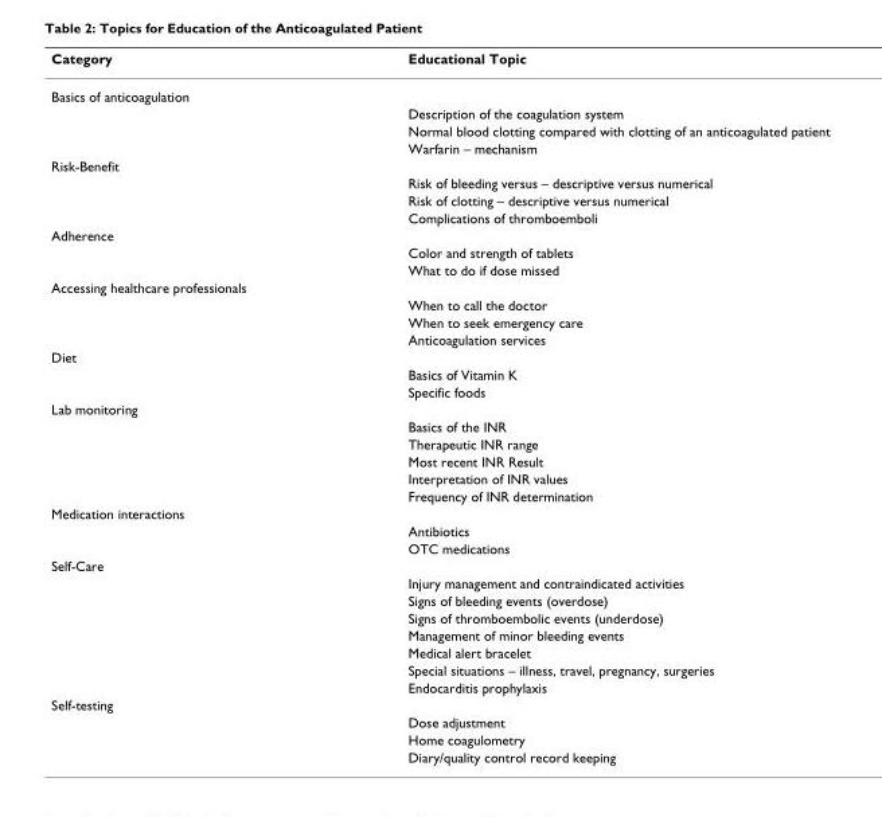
<table><thead><tr><td>Category</td><td>Educational Topic</td></tr></thead><tbody><tr><td colspan="2">Basics of anticoagulation</td></tr><tr><td></td><td>Description of the coagulation system</td></tr><tr><td></td><td>Normal blood clotting compared with clotting of an anticoagulated patient</td></tr><tr><td></td><td>Warfarin – mechanism</td></tr><tr><td colspan="2">Risk-Benefit</td></tr><tr><td></td><td>Risk of bleeding versus – descriptive versus numerical</td></tr><tr><td></td><td>Risk of clotting – descriptive versus numerical</td></tr><tr><td></td><td>Complications of thromboemboli</td></tr><tr><td colspan="2">Adherence</td></tr><tr><td></td><td>Color and strength of tablets</td></tr><tr><td></td><td>What to do if dose missed</td></tr><tr><td colspan="2">Accessing healthcare professionals</td></tr><tr><td></td><td>When to call the doctor</td></tr><tr><td></td><td>When to seek emergency care</td></tr><tr><td></td><td>Anticoagulation services</td></tr><tr><td colspan="2">Diet</td></tr><tr><td></td><td>Basics of Vitamin K</td></tr><tr><td></td><td>Specific foods</td></tr><tr><td colspan="2">Lab monitoring</td></tr><tr><td></td><td>Basics of the INR</td></tr><tr><td></td><td>Therapeutic INR range</td></tr><tr><td></td><td>Most recent INR Result</td></tr><tr><td></td><td>Interpretation of INR values</td></tr><tr><td></td><td>Frequency of INR determination</td></tr><tr><td colspan="2">Medication interactions</td></tr><tr><td></td><td>Antibiotics</td></tr><tr><td></td><td>OTC medications</td></tr><tr><td colspan="2">Self-Care</td></tr><tr><td></td><td>Injury management and contraindicated activities</td></tr><tr><td></td><td>Signs of bleeding events (overdose)</td></tr><tr><td></td><td>Signs of thromboembolic events (underdose)</td></tr><tr><td></td><td>Management of minor bleeding events</td></tr><tr><td></td><td>Medical alert bracelet</td></tr><tr><td></td><td>Special situations – illness, travel, pregnancy, surgeries</td></tr><tr><td></td><td>Endocarditis prophylaxis</td></tr><tr><td colspan="2">Self-testing</td></tr><tr><td></td><td>Dose adjustment</td></tr><tr><td></td><td>Home coagulometry</td></tr><tr><td></td><td>Diary/quality control record keeping</td></tr></tbody></table>